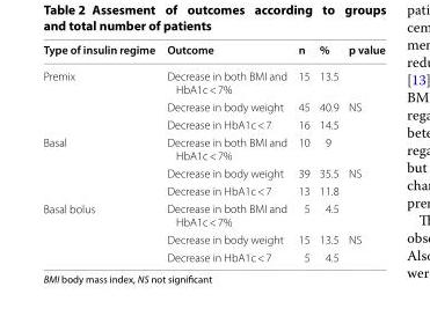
<table><thead><tr><td>Type of insulin regime</td><td>Outcome</td><td>n</td><td>%</td><td>p value</td></tr></thead><tbody><tr><td rowspan="3">Premix</td><td>Decrease in both BMI and HbA1c &lt; 7%</td><td>15</td><td>13.5</td><td></td></tr><tr><td>Decrease in body weight</td><td>45</td><td>40.9</td><td>NS</td></tr><tr><td>Decrease in HbA1c &lt; 7</td><td>16</td><td>14.5</td><td></td></tr><tr><td rowspan="3">Basal</td><td>Decrease in both BMI and HbA1c &lt; 7%</td><td>10</td><td>9</td><td></td></tr><tr><td>Decrease in body weight</td><td>39</td><td>35.5</td><td>NS</td></tr><tr><td>Decrease in HbA1c &lt; 7</td><td>13</td><td>11.8</td><td></td></tr><tr><td rowspan="3">Basal bolus</td><td>Decrease in both BMI and HbA1c &lt; 7%</td><td>5</td><td>4.5</td><td></td></tr><tr><td>Decrease in body weight</td><td>15</td><td>13.5</td><td>NS</td></tr><tr><td>Decrease in HbA1c &lt; 7</td><td>5</td><td>4.5</td><td></td></tr></tbody></table>